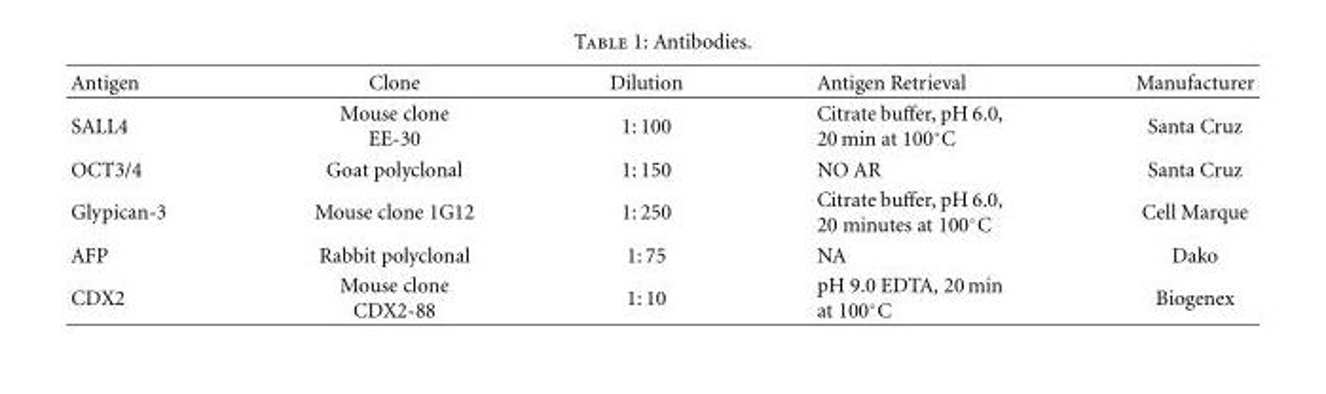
<table><thead><tr><td>Antigen</td><td>Clone</td><td>Dilution</td><td>Antigen Retrieval</td><td>Manufacturer</td></tr></thead><tbody><tr><td>SALL4</td><td>Mouse clone EE-30</td><td>1: 100</td><td>Citrate buffer, pH 6.0, 20 min at 100◦C</td><td>Santa Cruz</td></tr><tr><td>OCT3/4</td><td>Goat polyclonal</td><td>1: 150</td><td>NO AR</td><td>Santa Cruz</td></tr><tr><td>Glypican-3</td><td>Mouse clone 1G12</td><td>1: 250</td><td>Citrate buffer, pH 6.0, 20 minutes at 100◦C</td><td>Cell Marque</td></tr><tr><td>AFP</td><td>Rabbit polyclonal</td><td>1: 75</td><td>NA</td><td>Dako</td></tr><tr><td>CDX2</td><td>Mouse clone CDX2-88</td><td>1: 10</td><td>pH 9.0 EDTA, 20 min at 100◦C</td><td>Biogenex</td></tr></tbody></table>